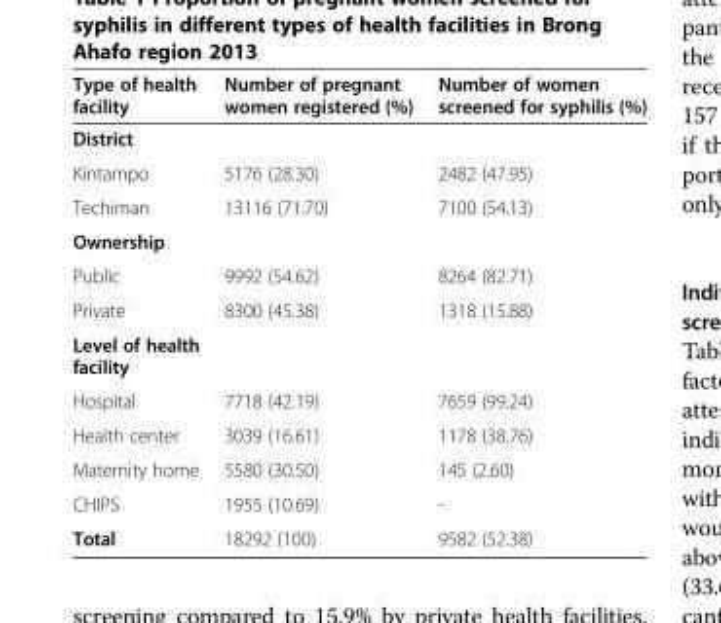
<table><thead><tr><td>Type of health facility</td><td>Number of pregnant women registered (%)</td><td>Number of women screened for syphilis (%)</td></tr></thead><tbody><tr><td colspan="3">District</td></tr><tr><td>Kintampo</td><td>5176 (28.30)</td><td>2482 (47.95)</td></tr><tr><td>Techiman</td><td>13116 (71.70)</td><td>7100 (54.13)</td></tr><tr><td colspan="3">Ownership</td></tr><tr><td>Public</td><td>9992 (54.62)</td><td>8264 (82.71)</td></tr><tr><td>Private</td><td>8300 (45.38)</td><td>1318 (15.88)</td></tr><tr><td colspan="3">Level of health facility</td></tr><tr><td>Hospital</td><td>7718 (42.19)</td><td>7659 (99.24)</td></tr><tr><td>Health center</td><td>3039 (16.61)</td><td>1178 (38.76)</td></tr><tr><td>Maternity home</td><td>5580 (30.50)</td><td>145 (2.60)</td></tr><tr><td>CHIPS</td><td>1955 (10.69)</td><td>-</td></tr><tr><td>Total</td><td>18292 (100)</td><td>9582 (52.38)</td></tr></tbody></table>